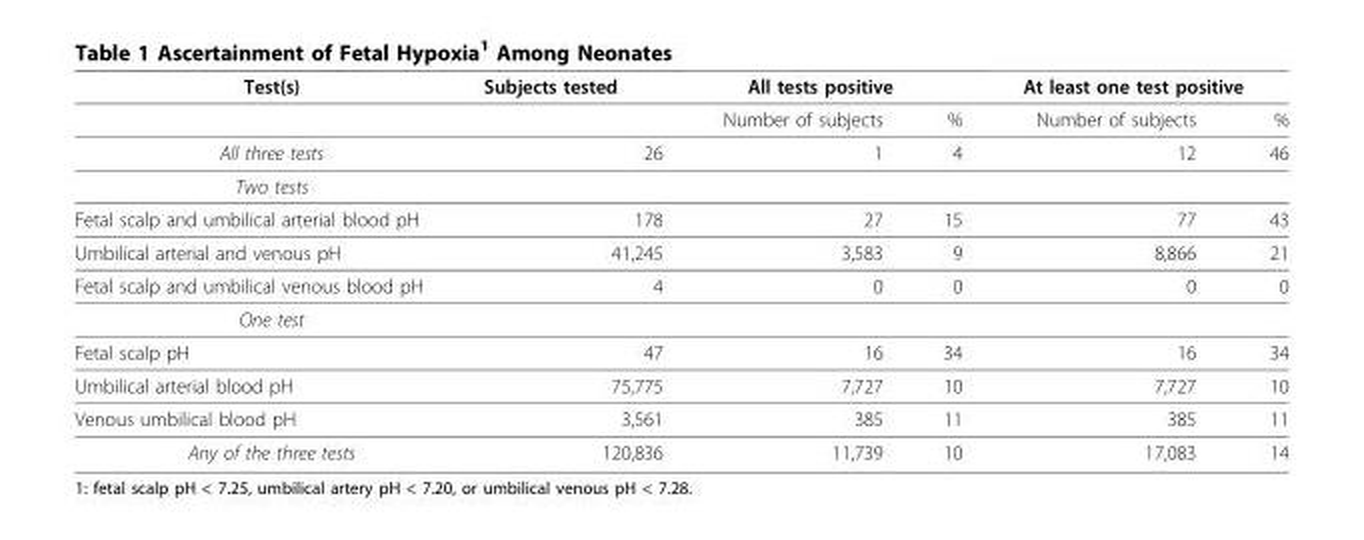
<table><thead><tr><td rowspan="2">Test(s)</td><td rowspan="2">Subjects tested</td><td colspan="2">All tests positive</td><td colspan="2">At least one test positive</td></tr><tr><td>Number of subjects</td><td>%</td><td>Number of subjects</td><td>%</td></tr></thead><tbody><tr><td>All three tests</td><td>26</td><td>1</td><td>4</td><td>12</td><td>46</td></tr><tr><td colspan="6">Two tests</td></tr><tr><td>Fetal scalp and umbilical arterial blood pH</td><td>178</td><td>27</td><td>15</td><td>77</td><td>43</td></tr><tr><td>Umbilical arterial and venous pH</td><td>41,245</td><td>3,583</td><td>9</td><td>8,866</td><td>21</td></tr><tr><td>Fetal scalp and umbilical venous blood pH</td><td>4</td><td>0</td><td>0</td><td>0</td><td>0</td></tr><tr><td colspan="6">One test</td></tr><tr><td>Fetal scalp pH</td><td>47</td><td>16</td><td>34</td><td>16</td><td>34</td></tr><tr><td>Umbilical arterial blood pH</td><td>75,775</td><td>7,727</td><td>10</td><td>7,727</td><td>10</td></tr><tr><td>Venous umbilical blood pH</td><td>3,561</td><td>385</td><td>11</td><td>385</td><td>11</td></tr><tr><td>Any of the three tests</td><td>120,836</td><td>11,739</td><td>10</td><td>17,083</td><td>14</td></tr></tbody></table>